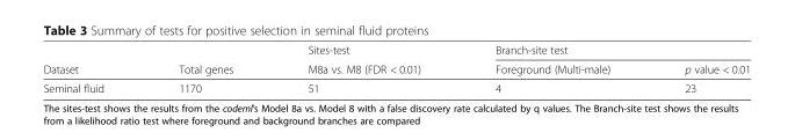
<table><thead><tr><td rowspan="2">Dataset</td><td rowspan="2">Total genes</td><td rowspan="2">Sites-test M8a vs. M8 (FDR &lt; 0.01)</td><td colspan="2">Branch-site test</td></tr><tr><td>Foreground (Multi-male)</td><td>p value &lt; 0.01</td></tr></thead><tbody><tr><td>Seminal fluid</td><td>1170</td><td>51</td><td>4</td><td>23</td></tr></tbody></table>